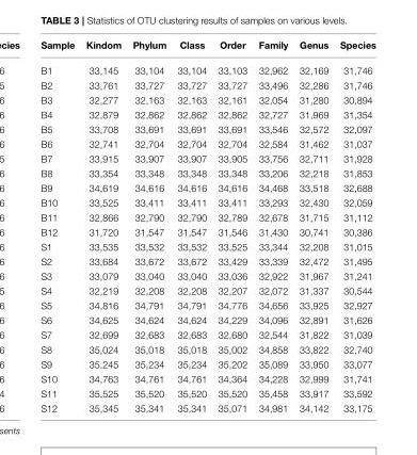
<table><thead><tr><td>Sample</td><td>Kindom</td><td>Phylum</td><td>Class</td><td>Order</td><td>Family</td><td>Genus</td><td>Species</td></tr></thead><tbody><tr><td>B1</td><td>33,145</td><td>33,104</td><td>33,104</td><td>33,103</td><td>32,962</td><td>32,169</td><td>31,746</td></tr><tr><td>B2</td><td>33,761</td><td>33,727</td><td>33,727</td><td>33,727</td><td>33,496</td><td>32,286</td><td>31,746</td></tr><tr><td>B3</td><td>32,277</td><td>32,163</td><td>32,163</td><td>32,161</td><td>32,054</td><td>31,280</td><td>30,894</td></tr><tr><td>B4</td><td>32,879</td><td>32,862</td><td>32,862</td><td>32,862</td><td>32,727</td><td>31,969</td><td>31,354</td></tr><tr><td>B5</td><td>33,708</td><td>33,691</td><td>33,691</td><td>33,691</td><td>33,546</td><td>32,572</td><td>32,097</td></tr><tr><td>B6</td><td>32,741</td><td>32,704</td><td>32,704</td><td>32,704</td><td>32,584</td><td>31,462</td><td>31,037</td></tr><tr><td>B7</td><td>33,915</td><td>33,907</td><td>33,907</td><td>33,905</td><td>33,756</td><td>32,711</td><td>31,928</td></tr><tr><td>B8</td><td>33,354</td><td>33,348</td><td>33,348</td><td>33,348</td><td>33,206</td><td>32,218</td><td>31,853</td></tr><tr><td>B9</td><td>34,619</td><td>34,616</td><td>34,616</td><td>34,616</td><td>34,468</td><td>33,518</td><td>32,688</td></tr><tr><td>B10</td><td>33,525</td><td>33,411</td><td>33,411</td><td>33,411</td><td>33,293</td><td>32,430</td><td>32,059</td></tr><tr><td>B11</td><td>32,866</td><td>32,790</td><td>32,790</td><td>32,789</td><td>32,678</td><td>31,715</td><td>31,112</td></tr><tr><td>B12</td><td>31,720</td><td>31,547</td><td>31,547</td><td>31,546</td><td>31,430</td><td>30,741</td><td>30,386</td></tr><tr><td>S1</td><td>33,535</td><td>33,532</td><td>33,532</td><td>33,525</td><td>33,344</td><td>32,208</td><td>31,015</td></tr><tr><td>S2</td><td>33,684</td><td>33,672</td><td>33,672</td><td>33,429</td><td>33,339</td><td>32,472</td><td>31,495</td></tr><tr><td>S3</td><td>33,079</td><td>33,040</td><td>33,040</td><td>33,036</td><td>32,922</td><td>31,967</td><td>31,241</td></tr><tr><td>S4</td><td>32,219</td><td>32,208</td><td>32,208</td><td>32,207</td><td>32,072</td><td>31,337</td><td>30,544</td></tr><tr><td>S5</td><td>34,816</td><td>34,791</td><td>34,791</td><td>34,776</td><td>34,656</td><td>33,925</td><td>32,927</td></tr><tr><td>S6</td><td>34,625</td><td>34,624</td><td>34,624</td><td>34,229</td><td>34,096</td><td>32,891</td><td>31,626</td></tr><tr><td>S7</td><td>32,699</td><td>32,683</td><td>32,683</td><td>32,680</td><td>32,544</td><td>31,822</td><td>31,039</td></tr><tr><td>S8</td><td>35,024</td><td>35,018</td><td>35,018</td><td>35,002</td><td>34,858</td><td>33,822</td><td>32,740</td></tr><tr><td>S9</td><td>35,245</td><td>35,234</td><td>35,234</td><td>35,202</td><td>35,089</td><td>33,950</td><td>33,077</td></tr><tr><td>S10</td><td>34,763</td><td>34,761</td><td>34,761</td><td>34,364</td><td>34,228</td><td>32,999</td><td>31,741</td></tr><tr><td>S11</td><td>35,525</td><td>35,520</td><td>35,520</td><td>35,520</td><td>35,458</td><td>33,917</td><td>33,592</td></tr><tr><td>S12</td><td>35,345</td><td>35,341</td><td>35,341</td><td>35,071</td><td>34,981</td><td>34,142</td><td>33,175</td></tr></tbody></table>